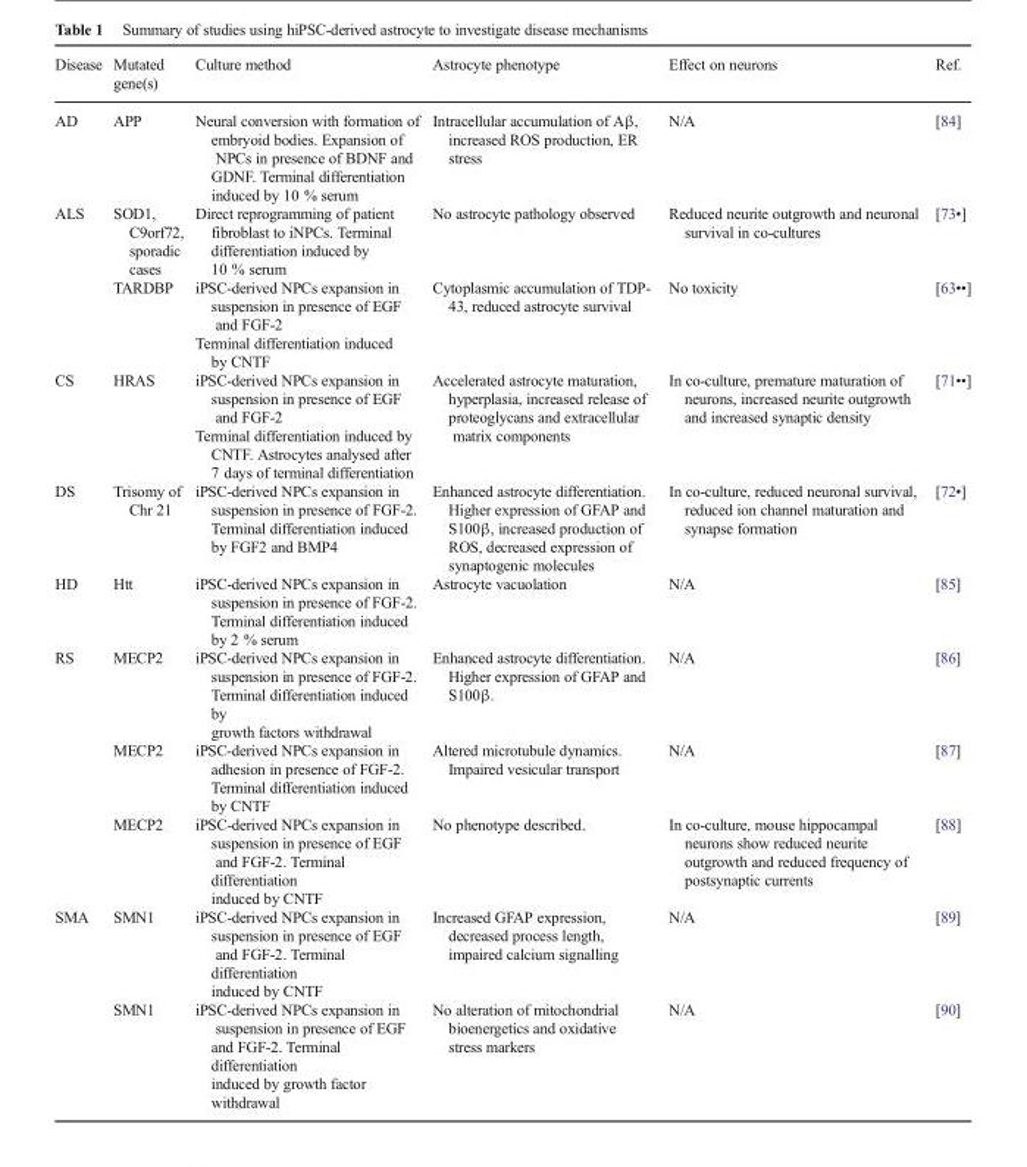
<table><thead><tr><td>Disease</td><td>Mutated gene(s)</td><td>Culture method</td><td>Astrocyte phenotype</td><td>Effect on neurons</td><td>Ref.</td></tr></thead><tbody><tr><td>AD</td><td>APP</td><td>Neural conversion with formation of embryoid bodies. Expansion of NPCs in presence of BDNF and GDNF. Terminal differentiation induced by 10 % serum</td><td>Intracellular accumulation of Aβ, increased ROS production, ER stress</td><td>N/A</td><td>[84]</td></tr><tr><td rowspan="2">ALS</td><td>SOD1, C9orf72, sporadic cases</td><td>Direct reprogramming of patient fibroblast to iNPCs. Terminal differentiation induced by 10 % serum</td><td>No astrocyte pathology observed</td><td>Reduced neurite outgrowth and neuronal survival in co-cultures</td><td>[73•]</td></tr><tr><td>TARDBP</td><td>iPSC-derived NPCs expansion in suspension in presence of EGF and FGF-2 Terminal differentiation induced by CNTF</td><td>Cytoplasmic accumulation of TDP- 43, reduced astrocyte survival</td><td>No toxicity</td><td>[63••]</td></tr><tr><td>CS</td><td>HRAS</td><td>iPSC-derived NPCs expansion in suspension in presence of EGF and FGF-2 Terminal differentiation induced by CNTF. Astrocytes analysed after 7 days of terminal differentiation</td><td>Accelerated astrocyte maturation, hyperplasia, increased release of proteoglycans and extracellular matrix components</td><td>In co-culture, premature maturation of neurons, increased neurite outgrowth and increased synaptic density</td><td>[71••]</td></tr><tr><td>DS</td><td>Trisomy of Chr 21</td><td>iPSC-derived NPCs expansion in suspension in presence of FGF-2. Terminal differentiation induced by FGF2 and BMP4</td><td>Enhanced astrocyte differentiation. Higher expression of GFAP and S100β, increased production of ROS, decreased expression of synaptogenic molecules</td><td>In co-culture, reduced neuronal survival, reduced ion channel maturation and synapse formation</td><td>[72•]</td></tr><tr><td>HD</td><td>Htt</td><td>iPSC-derived NPCs expansion in suspension in presence of FGF-2. Terminal differentiation induced by 2 % serum</td><td>Astrocyte vacuolation</td><td>N/A</td><td>[85]</td></tr><tr><td rowspan="3">RS</td><td>MECP2</td><td>iPSC-derived NPCs expansion in suspension in presence of FGF-2. Terminal differentiation induced by growth factors withdrawal</td><td>Enhanced astrocyte differentiation. Higher expression of GFAP and S100β.</td><td>N/A</td><td>[86]</td></tr><tr><td>MECP2</td><td>iPSC-derived NPCs expansion in adhesion in presence of FGF-2. Terminal differentiation induced by CNTF</td><td>Altered microtubule dynamics. Impaired vesicular transport</td><td>N/A</td><td>[87]</td></tr><tr><td>MECP2</td><td>iPSC-derived NPCs expansion in suspension in presence of EGF and FGF-2. Terminal differentiation induced by CNTF</td><td>No phenotype described.</td><td>In co-culture, mouse hippocampal neurons show reduced neurite outgrowth and reduced frequency of postsynaptic currents</td><td>[88]</td></tr><tr><td rowspan="2">SMA</td><td>SMN1</td><td>iPSC-derived NPCs expansion in suspension in presence of EGF and FGF-2. Terminal differentiation induced by CNTF</td><td>Increased GFAP expression, decreased process length, impaired calcium signalling</td><td>N/A</td><td>[89]</td></tr><tr><td>SMN1</td><td>iPSC-derived NPCs expansion in suspension in presence of EGF and FGF-2. Terminal differentiation induced by growth factor withdrawal</td><td>No alteration of mitochondrial bioenergetics and oxidative stress markers</td><td>N/A</td><td>[90]</td></tr></tbody></table>